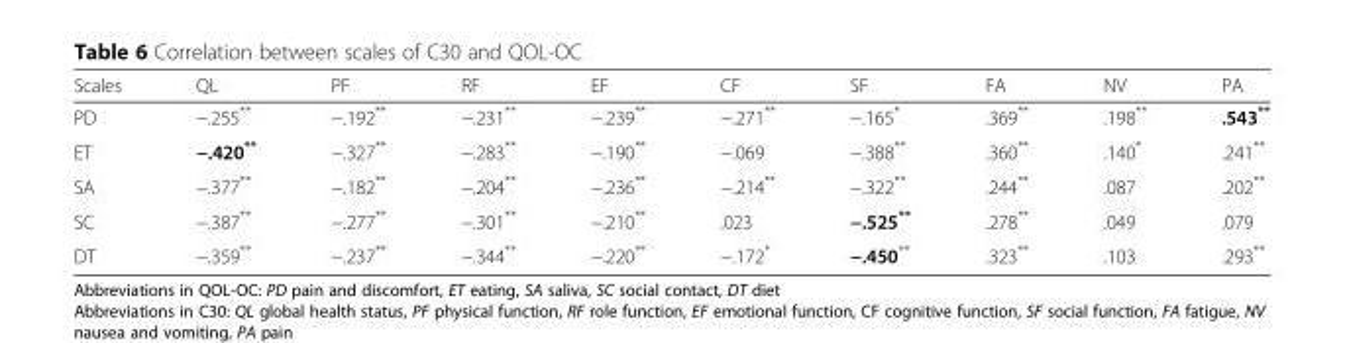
<table><thead><tr><td>Scales</td><td>QL</td><td>PF</td><td>RF</td><td>EF</td><td>CF</td><td>SF</td><td>FA</td><td>NV</td><td>PA</td></tr></thead><tbody><tr><td>PD</td><td>−.255**</td><td>−.192**</td><td>−.231**</td><td>−.239**</td><td>−.271**</td><td>−.165*</td><td>.369**</td><td>.198**</td><td>.543**</td></tr><tr><td>ET</td><td>−.420**</td><td>−.327**</td><td>−.283**</td><td>−.190**</td><td>−.069</td><td>−.388**</td><td>.360**</td><td>.140*</td><td>.241**</td></tr><tr><td>SA</td><td>−.377**</td><td>−.182**</td><td>−.204**</td><td>−.236**</td><td>−.214**</td><td>−.322**</td><td>.244**</td><td>.087</td><td>.202**</td></tr><tr><td>SC</td><td>−.387**</td><td>−.277**</td><td>−.301**</td><td>−.210**</td><td>.023</td><td>−.525**</td><td>.278**</td><td>.049</td><td>.079</td></tr><tr><td>DT</td><td>−.359**</td><td>−.237**</td><td>−.344**</td><td>−.220**</td><td>−.172*</td><td>−.450**</td><td>.323**</td><td>.103</td><td>.293**</td></tr></tbody></table>